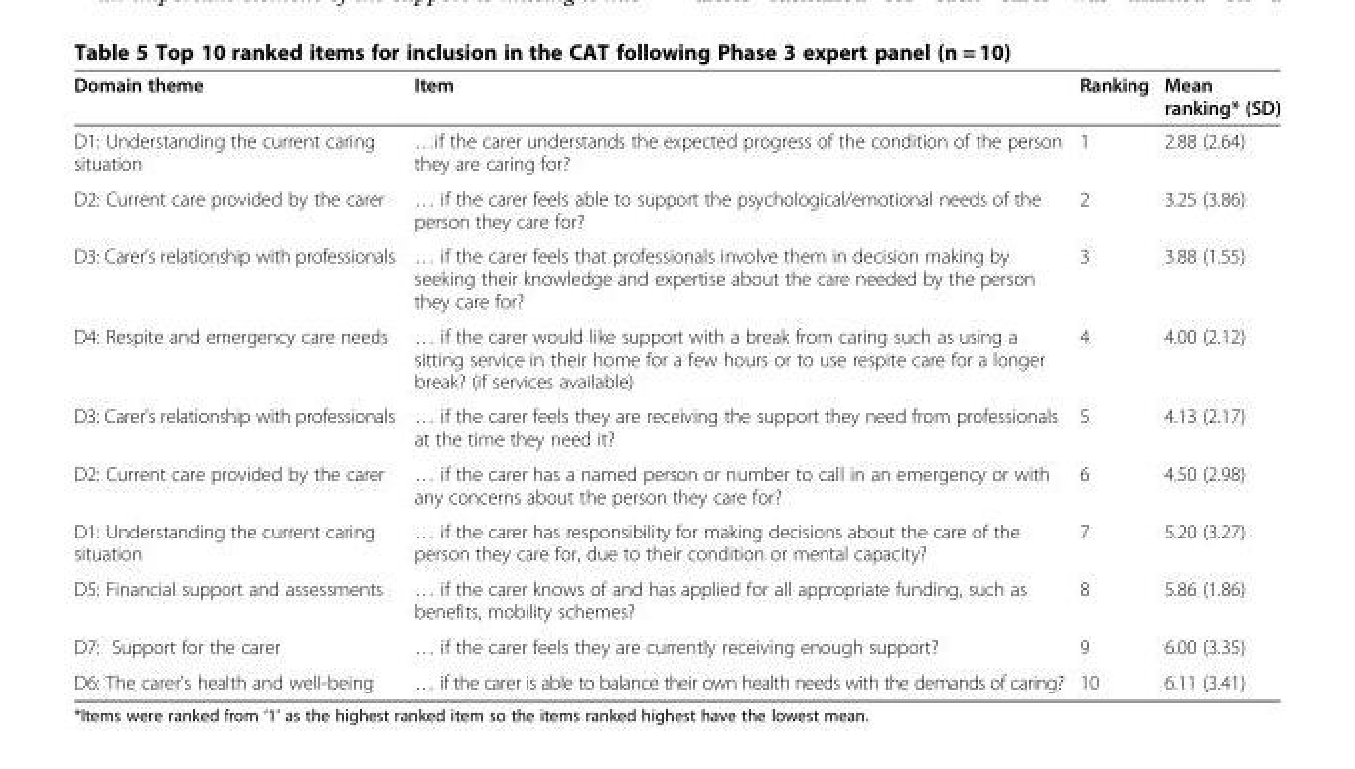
<table><thead><tr><td>Domain theme</td><td>Item</td><td>Ranking</td><td>Mean ranking* (SD)</td></tr></thead><tbody><tr><td>D1: Understanding the current caring situation</td><td>…if the carer understands the expected progress of the condition of the person they are caring for?</td><td>1</td><td>2.88 (2.64)</td></tr><tr><td>D2: Current care provided by the carer</td><td>… if the carer feels able to support the psychological/emotional needs of the person they care for?</td><td>2</td><td>3.25 (3.86)</td></tr><tr><td>D3: Carer’s relationship with professionals</td><td>… if the carer feels that professionals involve them in decision making by seeking their knowledge and expertise about the care needed by the person they care for?</td><td>3</td><td>3.88 (1.55)</td></tr><tr><td>D4: Respite and emergency care needs</td><td>… if the carer would like support with a break from caring such as using a sitting service in their home for a few hours or to use respite care for a longer break? (if services available)</td><td>4</td><td>4.00 (2.12)</td></tr><tr><td>D3: Carer’s relationship with professionals</td><td>… if the carer feels they are receiving the support they need from professionals at the time they need it?</td><td>5</td><td>4.13 (2.17)</td></tr><tr><td>D2: Current care provided by the carer</td><td>… if the carer has a named person or number to call in an emergency or with any concerns about the person they care for?</td><td>6</td><td>4.50 (2.98)</td></tr><tr><td>D1: Understanding the current caring situation</td><td>… if the carer has responsibility for making decisions about the care of the person they care for, due to their condition or mental capacity?</td><td>7</td><td>5.20 (3.27)</td></tr><tr><td>D5: Financial support and assessments</td><td>… if the carer knows of and has applied for all appropriate funding, such as benefits, mobility schemes?</td><td>8</td><td>5.86 (1.86)</td></tr><tr><td>D7: Support for the carer</td><td>… if the carer feels they are currently receiving enough support?</td><td>9</td><td>6.00 (3.35)</td></tr><tr><td>D6: The carer’s health and well-being</td><td>… if the carer is able to balance their own health needs with the demands of caring?</td><td>10</td><td>6.11 (3.41)</td></tr></tbody></table>